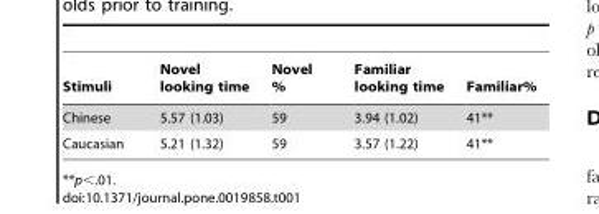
<table><thead><tr><td>Stimuli</td><td>Novel looking time</td><td>Novel %</td><td>Familiar looking time</td><td>Familiar%</td></tr></thead><tbody><tr><td>Chinese</td><td>5.57 (1.03)</td><td>59</td><td>3.94 (1.02)</td><td>41**</td></tr><tr><td>Caucasian</td><td>5.21 (1.32)</td><td>59</td><td>3.57 (1.22)</td><td>41**</td></tr></tbody></table>